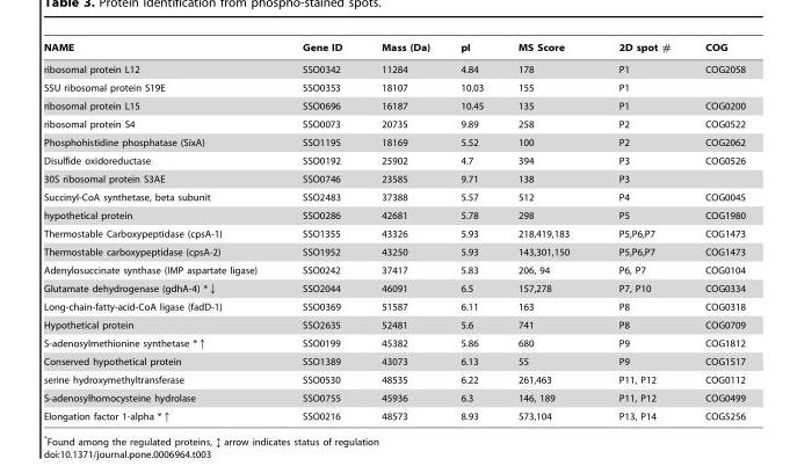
<table><thead><tr><td>NAME</td><td>Gene ID</td><td>Mass (Da)</td><td>pI</td><td>MS Score</td><td>2D spot #</td><td>COG</td></tr></thead><tbody><tr><td>ribosomal protein L12</td><td>SSO0342</td><td>11284</td><td>4.84</td><td>178</td><td>P1</td><td>COG2058</td></tr><tr><td>SSU ribosomal protein S19E</td><td>SSO0353</td><td>18107</td><td>10.03</td><td>155</td><td>P1</td><td></td></tr><tr><td>ribosomal protein L15</td><td>SSO0696</td><td>16187</td><td>10.45</td><td>135</td><td>P1</td><td>COG0200</td></tr><tr><td>ribosomal protein S4</td><td>SSO0073</td><td>20735</td><td>9.89</td><td>258</td><td>P2</td><td>COG0522</td></tr><tr><td>Phosphohistidine phosphatase (SixA)</td><td>SSO1195</td><td>18169</td><td>5.52</td><td>100</td><td>P2</td><td>COG2062</td></tr><tr><td>Disulfide oxidoreductase</td><td>SSO0192</td><td>25902</td><td>4.7</td><td>394</td><td>P3</td><td>COG0526</td></tr><tr><td>30S ribosomal protein S3AE</td><td>SSO0746</td><td>23585</td><td>9.71</td><td>138</td><td>P3</td><td></td></tr><tr><td>Succinyl-CoA synthetase, beta subunit</td><td>SSO2483</td><td>37388</td><td>5.57</td><td>512</td><td>P4</td><td>COG0045</td></tr><tr><td>hypothetical protein</td><td>SSO0286</td><td>42681</td><td>5.78</td><td>298</td><td>P5</td><td>COG1980</td></tr><tr><td>Thermostable Carboxypeptidase (cpsA-1)</td><td>SSO1355</td><td>43326</td><td>5.93</td><td>218,419,183</td><td>P5,P6,P7</td><td>COG1473</td></tr><tr><td>Thermostable carboxypeptidase (cpsA-2)</td><td>SSO1952</td><td>43250</td><td>5.93</td><td>143,301,150</td><td>P5,P6,P7</td><td>COG1473</td></tr><tr><td>Adenylosuccinate synthase (IMP aspartate ligase)</td><td>SSO0242</td><td>37417</td><td>5.83</td><td>206, 94</td><td>P6, P7</td><td>COG0104</td></tr><tr><td>Glutamate dehydrogenase (gdhA-4) *↓</td><td>SSO2044</td><td>46091</td><td>6.5</td><td>157,278</td><td>P7, P10</td><td>COG0334</td></tr><tr><td>Long-chain-fatty-acid-CoA ligase (fadD-1)</td><td>SSO0369</td><td>51587</td><td>6.11</td><td>163</td><td>P8</td><td>COG0318</td></tr><tr><td>Hypothetical protein</td><td>SSO2635</td><td>52481</td><td>5.6</td><td>741</td><td>P8</td><td>COG0709</td></tr><tr><td>S-adenosylmethionine synthetase *↑</td><td>SSO0199</td><td>45382</td><td>5.86</td><td>680</td><td>P9</td><td>COG1812</td></tr><tr><td>Conserved hypothetical protein</td><td>SSO1389</td><td>43073</td><td>6.13</td><td>55</td><td>P9</td><td>COG1517</td></tr><tr><td>serine hydroxymethyltransferase</td><td>SSO0530</td><td>48535</td><td>6.22</td><td>261,463</td><td>P11, P12</td><td>COG0112</td></tr><tr><td>S-adenosylhomocysteine hydrolase</td><td>SSO0755</td><td>45936</td><td>6.3</td><td>146, 189</td><td>P11, P12</td><td>COG0499</td></tr><tr><td>Elongation factor 1-alpha *↑</td><td>SSO0216</td><td>48573</td><td>8.93</td><td>573,104</td><td>P13, P14</td><td>COG5256</td></tr></tbody></table>